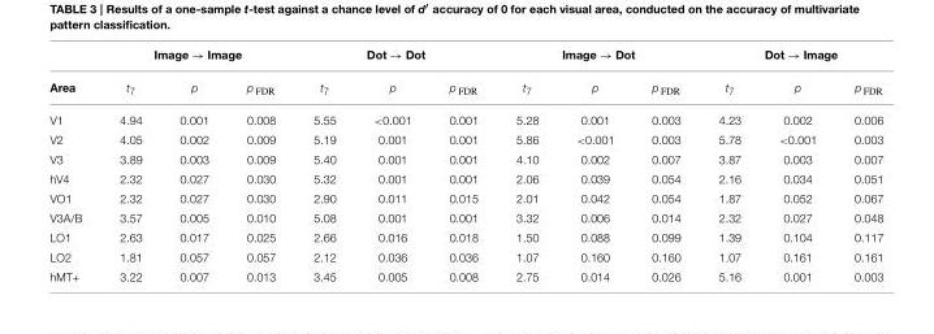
<table><thead><tr><td rowspan="2">Area</td><td colspan="3">Image → Image</td><td colspan="3">Dot → Dot</td><td colspan="3">Image → Dot</td><td colspan="3">Dot → Image</td></tr><tr><td>t<sub>7</sub></td><td>p</td><td>p <sub>FDR</sub></td><td>t<sub>7</sub></td><td>p</td><td>p <sub>FDR</sub></td><td>t<sub>7</sub></td><td>p</td><td>p <sub>FDR</sub></td><td>t<sub>7</sub></td><td>p</td><td>p <sub>FDR</sub></td></tr></thead><tbody><tr><td>V1</td><td>4.94</td><td>0.001</td><td>0.008</td><td>5.55</td><td>&lt;0.001</td><td>0.001</td><td>5.28</td><td>0.001</td><td>0.003</td><td>4.23</td><td>0.002</td><td>0.006</td></tr><tr><td>V2</td><td>4.05</td><td>0.002</td><td>0.009</td><td>5.19</td><td>0.001</td><td>0.001</td><td>5.86</td><td>&lt;0.001</td><td>0.003</td><td>5.78</td><td>&lt;0.001</td><td>0.003</td></tr><tr><td>V3</td><td>3.89</td><td>0.003</td><td>0.009</td><td>5.40</td><td>0.001</td><td>0.001</td><td>4.10</td><td>0.002</td><td>0.007</td><td>3.87</td><td>0.003</td><td>0.007</td></tr><tr><td>hV4</td><td>2.32</td><td>0.027</td><td>0.030</td><td>5.32</td><td>0.001</td><td>0.001</td><td>2.06</td><td>0.039</td><td>0.054</td><td>2.16</td><td>0.034</td><td>0.051</td></tr><tr><td>VO1</td><td>2.32</td><td>0.027</td><td>0.030</td><td>2.90</td><td>0.011</td><td>0.015</td><td>2.01</td><td>0.042</td><td>0.054</td><td>1.87</td><td>0.052</td><td>0.067</td></tr><tr><td>V3A/B</td><td>3.57</td><td>0.005</td><td>0.010</td><td>5.08</td><td>0.001</td><td>0.001</td><td>3.32</td><td>0.006</td><td>0.014</td><td>2.32</td><td>0.027</td><td>0.048</td></tr><tr><td>LO1</td><td>2.63</td><td>0.017</td><td>0.025</td><td>2.66</td><td>0.016</td><td>0.018</td><td>1.50</td><td>0.088</td><td>0.099</td><td>1.39</td><td>0.104</td><td>0.117</td></tr><tr><td>LO2</td><td>1.81</td><td>0.057</td><td>0.057</td><td>2.12</td><td>0.036</td><td>0.036</td><td>1.07</td><td>0.160</td><td>0.160</td><td>1.07</td><td>0.161</td><td>0.161</td></tr><tr><td>hMT+</td><td>3.22</td><td>0.007</td><td>0.013</td><td>3.45</td><td>0.005</td><td>0.008</td><td>2.75</td><td>0.014</td><td>0.026</td><td>5.16</td><td>0.001</td><td>0.003</td></tr></tbody></table>